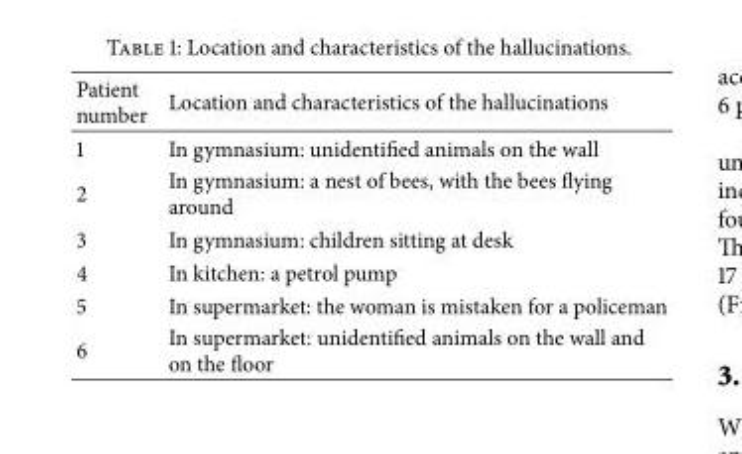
<table><thead><tr><td>Patient number</td><td>Location and characteristics of the hallucinations</td></tr></thead><tbody><tr><td>1</td><td>In gymnasium: unidentified animals on the wall</td></tr><tr><td>2</td><td>In gymnasium: a nest of bees, with the bees flying around</td></tr><tr><td>3</td><td>In gymnasium: children sitting at desk</td></tr><tr><td>4</td><td>In kitchen: a petrol pump</td></tr><tr><td>5</td><td>In supermarket: the woman is mistaken for a policeman</td></tr><tr><td>6</td><td>In supermarket: unidentified animals on the wall and on the floor</td></tr></tbody></table>